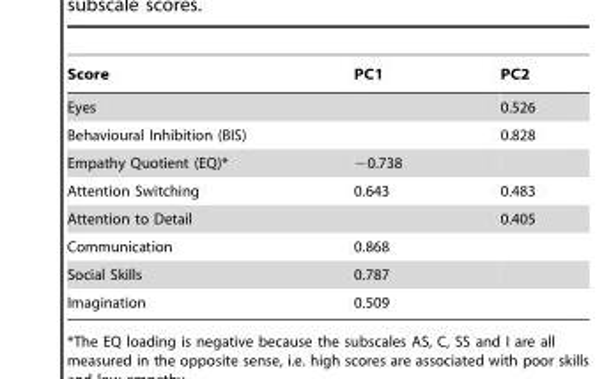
<table><thead><tr><td>Score</td><td>PC1</td><td>PC2</td></tr></thead><tbody><tr><td>Eyes</td><td></td><td>0.526</td></tr><tr><td>Behavioural Inhibition (BIS)</td><td></td><td>0.828</td></tr><tr><td>Empathy Quotient (EQ)*</td><td>−0.738</td><td></td></tr><tr><td>Attention Switching</td><td>0.643</td><td>0.483</td></tr><tr><td>Attention to Detail</td><td></td><td>0.405</td></tr><tr><td>Communication</td><td>0.868</td><td></td></tr><tr><td>Social Skills</td><td>0.787</td><td></td></tr><tr><td>Imagination</td><td>0.509</td><td></td></tr></tbody></table>